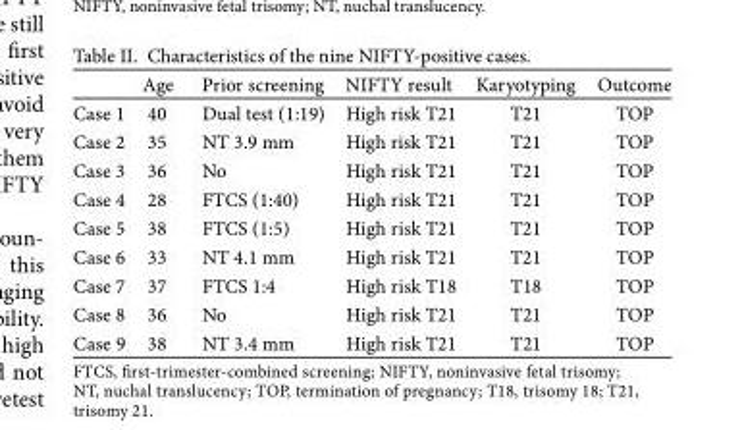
<table><thead><tr><td></td><td>Age</td><td>Prior screening</td><td>NIFTY result</td><td>Karyotyping</td><td>Outcome</td></tr></thead><tbody><tr><td>Case 1</td><td>40</td><td>Dual test (1:19)</td><td>High risk T21</td><td>T21</td><td>TOP</td></tr><tr><td>Case 2</td><td>35</td><td>NT 3.9 mm</td><td>High risk T21</td><td>T21</td><td>TOP</td></tr><tr><td>Case 3</td><td>36</td><td>No</td><td>High risk T21</td><td>T21</td><td>TOP</td></tr><tr><td>Case 4</td><td>28</td><td>FTCS (1:40)</td><td>High risk T21</td><td>T21</td><td>TOP</td></tr><tr><td>Case 5</td><td>38</td><td>FTCS (1:5)</td><td>High risk T21</td><td>T21</td><td>TOP</td></tr><tr><td>Case 6</td><td>33</td><td>NT 4.1 mm</td><td>High risk T21</td><td>T21</td><td>TOP</td></tr><tr><td>Case 7</td><td>37</td><td>FTCS 1:4</td><td>High risk T18</td><td>T18</td><td>TOP</td></tr><tr><td>Case 8</td><td>36</td><td>No</td><td>High risk T21</td><td>T21</td><td>TOP</td></tr><tr><td>Case 9</td><td>38</td><td>NT 3.4 mm</td><td>High risk T21</td><td>T21</td><td>TOP</td></tr></tbody></table>